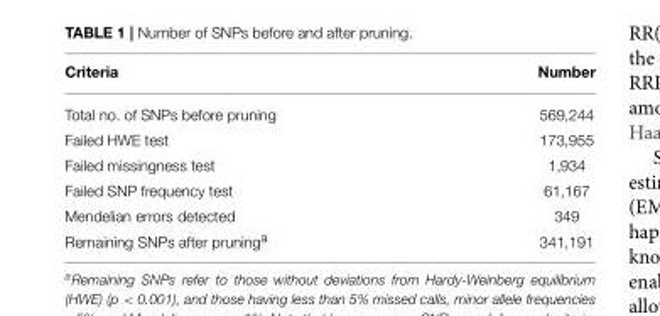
<table><thead><tr><td>Criteria</td><td>Number</td></tr></thead><tbody><tr><td>Total no. of SNPs before pruning</td><td>569,244</td></tr><tr><td>Failed HWE test</td><td>173,955</td></tr><tr><td>Failed missingness test</td><td>1,934</td></tr><tr><td>Failed SNP frequency test</td><td>61,167</td></tr><tr><td>Mendelian errors detected</td><td>349</td></tr><tr><td>Remaining SNPs after pruning<sup>a</sup></td><td>341,191</td></tr></tbody></table>